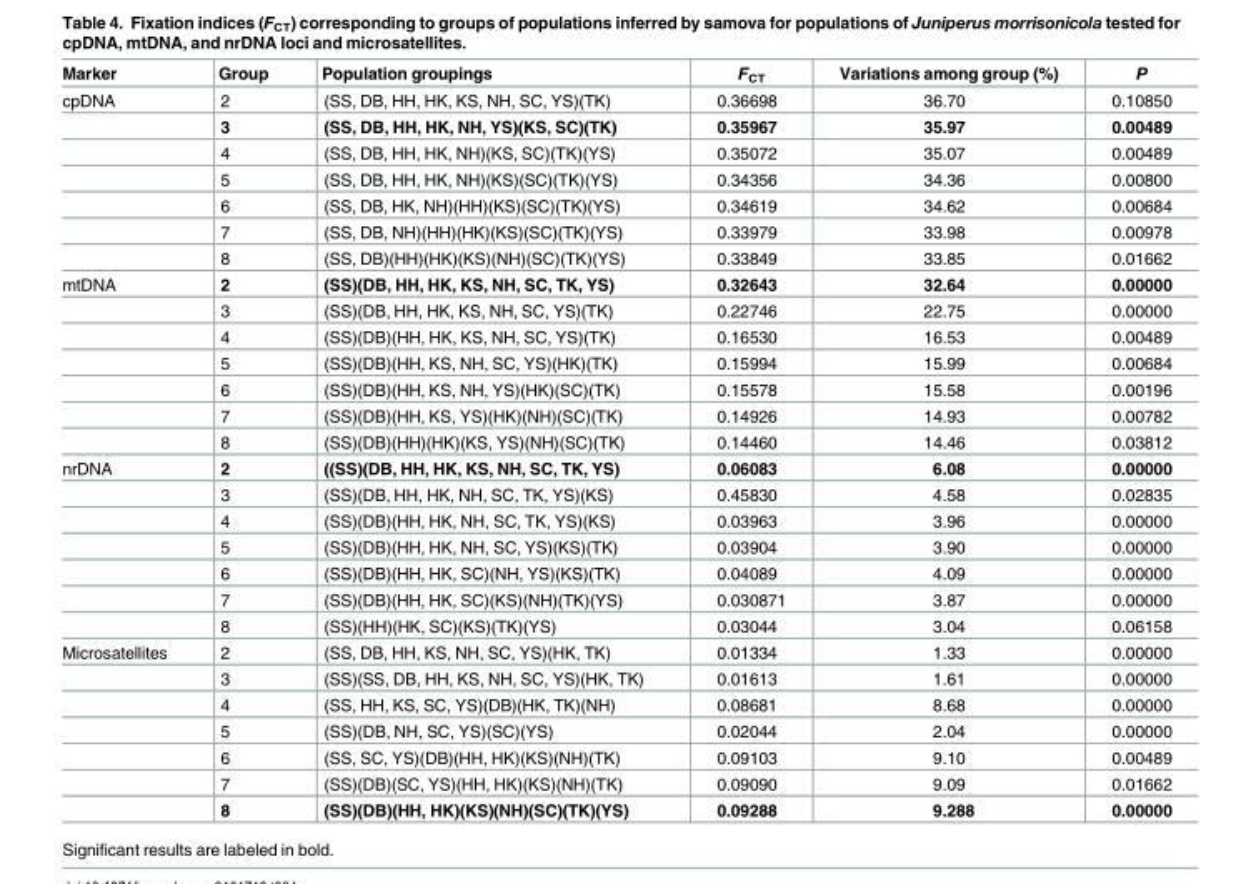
<table><thead><tr><td>Marker</td><td>Group</td><td>Population groupings</td><td>F<sub>CT</sub></td><td>Variations among group (%)</td><td>P</td></tr></thead><tbody><tr><td rowspan="7">cpDNA</td><td>2</td><td>(SS, DB, HH, HK, KS, NH, SC, YS)(TK)</td><td>0.36698</td><td>36.70</td><td>0.10850</td></tr><tr><td>3</td><td>(SS, DB, HH, HK, NH, YS)(KS, SC)(TK)</td><td>0.35967</td><td>35.97</td><td>0.00489</td></tr><tr><td>4</td><td>(SS, DB, HH, HK, NH)(KS, SC)(TK)(YS)</td><td>0.35072</td><td>35.07</td><td>0.00489</td></tr><tr><td>5</td><td>(SS, DB, HH, HK, NH)(KS)(SC)(TK)(YS)</td><td>0.34356</td><td>34.36</td><td>0.00800</td></tr><tr><td>6</td><td>(SS, DB, HK, NH)(HH)(KS)(SC)(TK)(YS)</td><td>0.34619</td><td>34.62</td><td>0.00684</td></tr><tr><td>7</td><td>(SS, DB, NH)(HH)(HK)(KS)(SC)(TK)(YS)</td><td>0.33979</td><td>33.98</td><td>0.00978</td></tr><tr><td>8</td><td>(SS, DB)(HH)(HK)(KS)(NH)(SC)(TK)(YS)</td><td>0.33849</td><td>33.85</td><td>0.01662</td></tr><tr><td rowspan="7">mtDNA</td><td>2</td><td>(SS)(DB, HH, HK, KS, NH, SC, TK, YS)</td><td>0.32643</td><td>32.64</td><td>0.00000</td></tr><tr><td>3</td><td>(SS)(DB, HH, HK, KS, NH, SC, YS)(TK)</td><td>0.22746</td><td>22.75</td><td>0.00000</td></tr><tr><td>4</td><td>(SS)(DB)(HH, HK, KS, NH, SC, YS)(TK)</td><td>0.16530</td><td>16.53</td><td>0.00489</td></tr><tr><td>5</td><td>(SS)(DB)(HH, KS, NH, SC, YS)(HK)(TK)</td><td>0.15994</td><td>15.99</td><td>0.00684</td></tr><tr><td>6</td><td>(SS)(DB)(HH, KS, NH, YS)(HK)(SC)(TK)</td><td>0.15578</td><td>15.58</td><td>0.00196</td></tr><tr><td>7</td><td>(SS)(DB)(HH, KS, YS)(HK)(NH)(SC)(TK)</td><td>0.14926</td><td>14.93</td><td>0.00782</td></tr><tr><td>8</td><td>(SS)(DB)(HH)(HK)(KS, YS)(NH)(SC)(TK)</td><td>0.14460</td><td>14.46</td><td>0.03812</td></tr><tr><td rowspan="7">nrDNA</td><td>2</td><td>((SS)(DB, HH, HK, KS, NH, SC, TK, YS)</td><td>0.06083</td><td>6.08</td><td>0.00000</td></tr><tr><td>3</td><td>(SS)(DB, HH, HK, NH, SC, TK, YS)(KS)</td><td>0.45830</td><td>4.58</td><td>0.02835</td></tr><tr><td>4</td><td>(SS)(DB)(HH, HK, NH, SC, TK, YS)(KS)</td><td>0.03963</td><td>3.96</td><td>0.00000</td></tr><tr><td>5</td><td>(SS)(DB)(HH, HK, NH, SC, YS)(KS)(TK)</td><td>0.03904</td><td>3.90</td><td>0.00000</td></tr><tr><td>6</td><td>(SS)(DB)(HH, HK, SC)(NH, YS)(KS)(TK)</td><td>0.04089</td><td>4.09</td><td>0.00000</td></tr><tr><td>7</td><td>(SS)(DB)(HH, HK, SC)(KS)(NH)(TK)(YS)</td><td>0.030871</td><td>3.87</td><td>0.00000</td></tr><tr><td>8</td><td>(SS)(HH)(HK, SC)(KS)(TK)(YS)</td><td>0.03044</td><td>3.04</td><td>0.06158</td></tr><tr><td rowspan="7">Microsatellites</td><td>2</td><td>(SS, DB, HH, KS, NH, SC, YS)(HK, TK)</td><td>0.01334</td><td>1.33</td><td>0.00000</td></tr><tr><td>3</td><td>(SS)(SS, DB, HH, KS, NH, SC, YS)(HK, TK)</td><td>0.01613</td><td>1.61</td><td>0.00000</td></tr><tr><td>4</td><td>(SS, HH, KS, SC, YS)(DB)(HK, TK)(NH)</td><td>0.08681</td><td>8.68</td><td>0.00000</td></tr><tr><td>5</td><td>(SS)(DB, NH, SC, YS)(SC)(YS)</td><td>0.02044</td><td>2.04</td><td>0.00000</td></tr><tr><td>6</td><td>(SS, SC, YS)(DB)(HH, HK)(KS)(NH)(TK)</td><td>0.09103</td><td>9.10</td><td>0.00489</td></tr><tr><td>7</td><td>(SS)(DB)(SC, YS)(HH, HK)(KS)(NH)(TK)</td><td>0.09090</td><td>9.09</td><td>0.01662</td></tr><tr><td>8</td><td>(SS)(DB)(HH, HK)(KS)(NH)(SC)(TK)(YS)</td><td>0.09288</td><td>9.288</td><td>0.00000</td></tr></tbody></table>